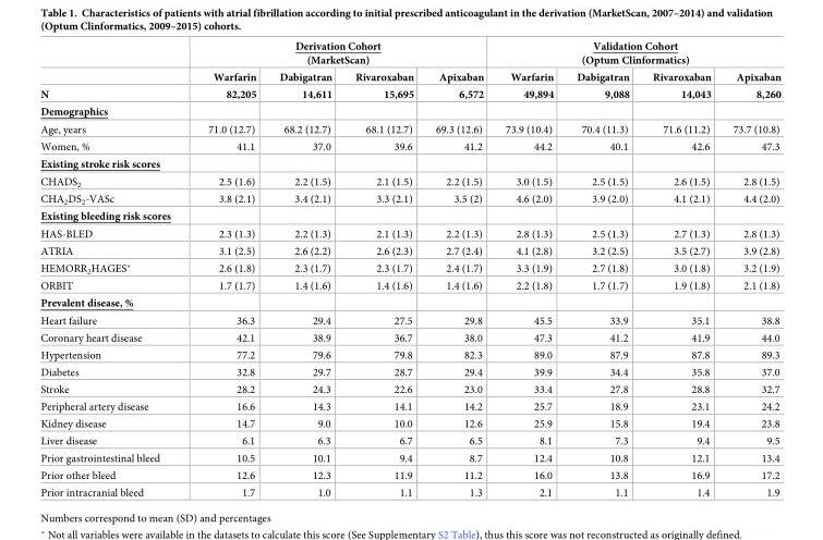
<table><thead><tr><td rowspan="3">N</td><td colspan="4">Derivation Cohort (MarketScan)</td><td colspan="4">Validation Cohort (Optum Clinformatics)</td></tr><tr><td rowspan="2">Warfarin 82,205</td><td rowspan="2">Dabigatran 14,611</td><td rowspan="2">Rivaroxaban 15,695</td><td rowspan="2">Apixaban 6,572</td><td rowspan="2">Warfarin 49,894</td><td rowspan="2">Dabigatran 9,088</td><td rowspan="2">Rivaroxaban 14,043</td><td rowspan="2">Apixaban 8,260</td></tr><tr></tr></thead><tbody><tr><td colspan="9">Demographics</td></tr><tr><td>Age, years</td><td>71.0 (12.7)</td><td>68.2 (12.7)</td><td>68.1 (12.7)</td><td>69.3 (12.6)</td><td>73.9 (10.4)</td><td>70.4 (11.3)</td><td>71.6 (11.2)</td><td>73.7 (10.8)</td></tr><tr><td>Women, %</td><td>41.1</td><td>37.0</td><td>39.6</td><td>41.2</td><td>44.2</td><td>40.1</td><td>42.6</td><td>47.3</td></tr><tr><td colspan="9">Existing stroke risk scores</td></tr><tr><td>CHADS<sub>2</sub></td><td>2.5 (1.6)</td><td>2.2 (1.5)</td><td>2.1 (1.5)</td><td>2.2 (1.5)</td><td>3.0 (1.5)</td><td>2.5 (1.5)</td><td>2.6 (1.5)</td><td>2.8 (1.5)</td></tr><tr><td>CHA<sub>2</sub>DS<sub>2</sub>-VASc</td><td>3.8 (2.1)</td><td>3.4 (2.1)</td><td>3.3 (2.1)</td><td>3.5 (2)</td><td>4.6 (2.0)</td><td>3.9 (2.0)</td><td>4.1 (2.1)</td><td>4.4 (2.0)</td></tr><tr><td colspan="9">Existing bleeding risk scores</td></tr><tr><td>HAS-BLED</td><td>2.3 (1.3)</td><td>2.2 (1.3)</td><td>2.1 (1.3)</td><td>2.2 (1.3)</td><td>2.8 (1.3)</td><td>2.5 (1.3)</td><td>2.7 (1.3)</td><td>2.8 (1.3)</td></tr><tr><td>ATRIA</td><td>3.1 (2.5)</td><td>2.6 (2.2)</td><td>2.6 (2.3)</td><td>2.7 (2.4)</td><td>4.1 (2.8)</td><td>3.2 (2.5)</td><td>3.5 (2.7)</td><td>3.9 (2.8)</td></tr><tr><td>HEMORR<sub>2</sub>HAGES*</td><td>2.6 (1.8)</td><td>2.3 (1.7)</td><td>2.3 (1.7)</td><td>2.4 (1.7)</td><td>3.3 (1.9)</td><td>2.7 (1.8)</td><td>3.0 (1.8)</td><td>3.2 (1.9)</td></tr><tr><td>ORBIT</td><td>1.7 (1.7)</td><td>1.4 (1.6)</td><td>1.4 (1.6)</td><td>1.4 (1.6)</td><td>2.2 (1.8)</td><td>1.7 (1.7)</td><td>1.9 (1.8)</td><td>2.1 (1.8)</td></tr><tr><td colspan="9">Prevalent disease, %</td></tr><tr><td>Heart failure</td><td>36.3</td><td>29.4</td><td>27.5</td><td>29.8</td><td>45.5</td><td>33.9</td><td>35.1</td><td>38.8</td></tr><tr><td>Coronary heart disease</td><td>42.1</td><td>38.9</td><td>36.7</td><td>38.0</td><td>47.3</td><td>41.2</td><td>41.9</td><td>44.0</td></tr><tr><td>Hypertension</td><td>77.2</td><td>79.6</td><td>79.8</td><td>82.3</td><td>89.0</td><td>87.9</td><td>87.8</td><td>89.3</td></tr><tr><td>Diabetes</td><td>32.8</td><td>29.7</td><td>28.7</td><td>29.4</td><td>39.9</td><td>34.4</td><td>35.8</td><td>37.0</td></tr><tr><td>Stroke</td><td>28.2</td><td>24.3</td><td>22.6</td><td>23.0</td><td>33.4</td><td>27.8</td><td>28.8</td><td>32.7</td></tr><tr><td>Peripheral artery disease</td><td>16.6</td><td>14.3</td><td>14.1</td><td>14.2</td><td>25.7</td><td>18.9</td><td>23.1</td><td>24.2</td></tr><tr><td>Kidney disease</td><td>14.7</td><td>9.0</td><td>10.0</td><td>12.6</td><td>25.9</td><td>15.8</td><td>19.4</td><td>23.8</td></tr><tr><td>Liver disease</td><td>6.1</td><td>6.3</td><td>6.7</td><td>6.5</td><td>8.1</td><td>7.3</td><td>9.4</td><td>9.5</td></tr><tr><td>Prior gastrointestinal bleed</td><td>10.5</td><td>10.1</td><td>9.4</td><td>8.7</td><td>12.4</td><td>10.8</td><td>12.1</td><td>13.4</td></tr><tr><td>Prior other bleed</td><td>12.6</td><td>12.3</td><td>11.9</td><td>11.2</td><td>16.0</td><td>13.8</td><td>16.9</td><td>17.2</td></tr><tr><td>Prior intracranial bleed</td><td>1.7</td><td>1.0</td><td>1.1</td><td>1.3</td><td>2.1</td><td>1.1</td><td>1.4</td><td>1.9</td></tr></tbody></table>